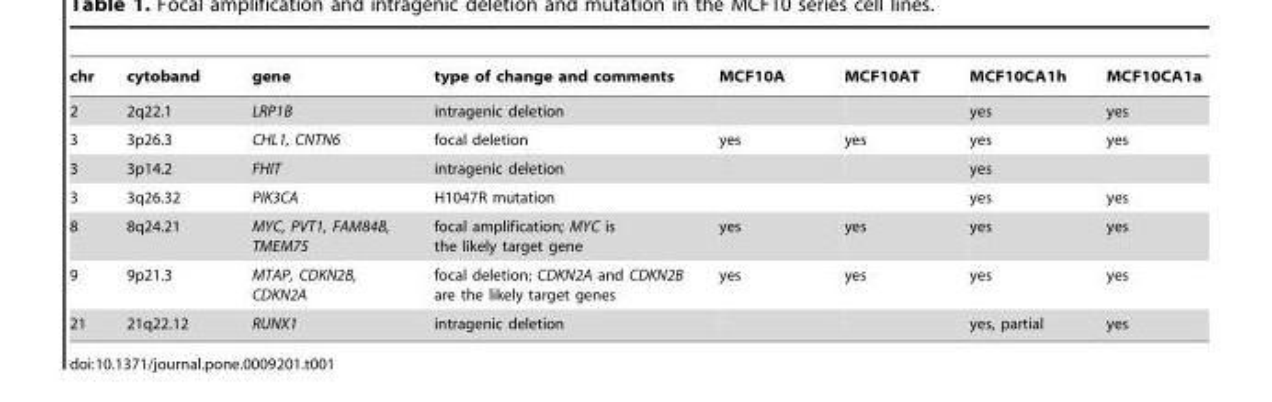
<table><thead><tr><td>chr</td><td>cytoband</td><td>gene</td><td>type of change and comments</td><td>MCF10A</td><td>MCF10AT</td><td>MCF10CA1h</td><td>MCF10CA1a</td></tr></thead><tbody><tr><td>2</td><td>2q22.1</td><td>LRP1B</td><td>intragenic deletion</td><td></td><td></td><td>yes</td><td>yes</td></tr><tr><td>3</td><td>3p26.3</td><td>CHL1, CNTN6</td><td>focal deletion</td><td>yes</td><td>yes</td><td>yes</td><td>yes</td></tr><tr><td>3</td><td>3p14.2</td><td>FHIT</td><td>intragenic deletion</td><td></td><td></td><td>yes</td><td></td></tr><tr><td>3</td><td>3q26.32</td><td>PIK3CA</td><td>H1047R mutation</td><td></td><td></td><td>yes</td><td>yes</td></tr><tr><td>8</td><td>8q24.21</td><td>MYC, PVT1, FAM84B, TMEM75</td><td>focal amplification; MYC is the likely target gene</td><td>yes</td><td>yes</td><td>yes</td><td>yes</td></tr><tr><td>9</td><td>9p21.3</td><td>MTAP, CDKN2B, CDKN2A</td><td>focal deletion; CDKN2A and CDKN2B are the likely target genes</td><td>yes</td><td>yes</td><td>yes</td><td>yes</td></tr><tr><td>21</td><td>21q22.12</td><td>RUNX1</td><td>intragenic deletion</td><td></td><td></td><td>yes, partial</td><td>yes</td></tr></tbody></table>